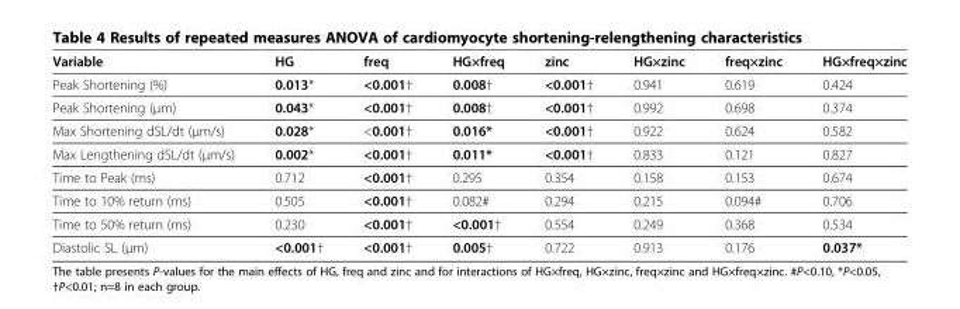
<table><thead><tr><td>Variable</td><td>HG</td><td>freq</td><td>HG×freq</td><td>zinc</td><td>HG×zinc</td><td>freq×zinc</td><td>HG×freq×zinc</td></tr></thead><tbody><tr><td>Peak Shortening (%)</td><td>0.013*</td><td>&lt;0.001†</td><td>0.008†</td><td>&lt;0.001†</td><td>0.941</td><td>0.619</td><td>0.424</td></tr><tr><td>Peak Shortening (μm)</td><td>0.043*</td><td>&lt;0.001†</td><td>0.008†</td><td>&lt;0.001†</td><td>0.992</td><td>0.698</td><td>0.374</td></tr><tr><td>Max Shortening dSL/dt (μm/s)</td><td>0.028*</td><td>&lt;0.001†</td><td>0.016*</td><td>&lt;0.001†</td><td>0.922</td><td>0.624</td><td>0.582</td></tr><tr><td>Max Lengthening dSL/dt (μm/s)</td><td>0.002*</td><td>&lt;0.001†</td><td>0.011*</td><td>&lt;0.001†</td><td>0.833</td><td>0.121</td><td>0.827</td></tr><tr><td>Time to Peak (ms)</td><td>0.712</td><td>&lt;0.001†</td><td>0.295</td><td>0.354</td><td>0.158</td><td>0.153</td><td>0.674</td></tr><tr><td>Time to 10% return (ms)</td><td>0.505</td><td>&lt;0.001†</td><td>0.082#</td><td>0.294</td><td>0.215</td><td>0.094#</td><td>0.706</td></tr><tr><td>Time to 50% return (ms)</td><td>0.230</td><td>&lt;0.001†</td><td>&lt;0.001†</td><td>0.554</td><td>0.249</td><td>0.368</td><td>0.534</td></tr><tr><td>Diastolic SL (μm)</td><td>&lt;0.001†</td><td>&lt;0.001†</td><td>0.005†</td><td>0.722</td><td>0.913</td><td>0.176</td><td>0.037*</td></tr></tbody></table>